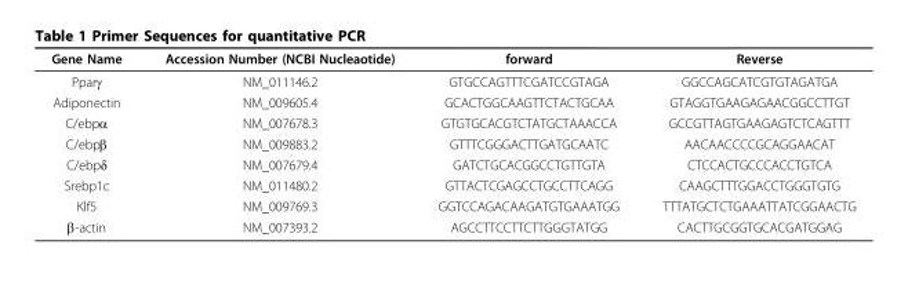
<table><thead><tr><td>Gene Name</td><td>Accession Number (NCBI Nucleaotide)</td><td>forward</td><td>Reverse</td></tr></thead><tbody><tr><td>Pparγ</td><td>NM_011146.2</td><td>GTGCCAGTTTCGATCCGTAGA</td><td>GGCCAGCATCGTGTAGATGA</td></tr><tr><td>Adiponectin</td><td>NM_009605.4</td><td>GCACTGGCAAGTTCTACTGCAA</td><td>GTAGGTGAAGAGAACGGCCTTGT</td></tr><tr><td>C/ebpα</td><td>NM_007678.3</td><td>GTGTGCACGTCTATGCTAAACCA</td><td>GCCGTTAGTGAAGAGTCTCAGTTT</td></tr><tr><td>C/ebpβ</td><td>NM_009883.2</td><td>GTTTCGGGACTTGATGCAATC</td><td>AACAACCCCGCAGGAACAT</td></tr><tr><td>C/ebpδ</td><td>NM_007679.4</td><td>GATCTGCACGGCCTGTTGTA</td><td>CTCCACTGCCCACCTGTCA</td></tr><tr><td>Srebp1c</td><td>NM_011480.2</td><td>GTTACTCGAGCCTGCCTTCAGG</td><td>CAAGCTTTGGACCTGGGTGTG</td></tr><tr><td>Klf5</td><td>NM_009769.3</td><td>GGTCCAGACAAGATGTGAAATGG</td><td>TTTATGCTCTGAAATTATCGGAACTG</td></tr><tr><td>β-actin</td><td>NM_007393.2</td><td>AGCCTTCCTTCTTGGGTATGG</td><td>CACTTGCGGTGCACGATGGAG</td></tr></tbody></table>